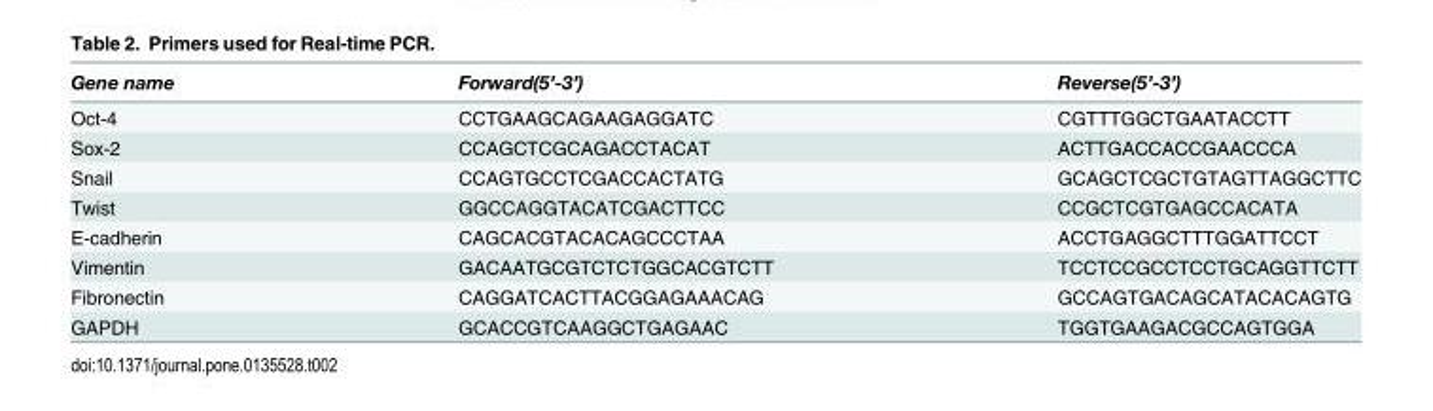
<table><thead><tr><td>Gene name</td><td>Forward(5’-3’)</td><td>Reverse(5’-3’)</td></tr></thead><tbody><tr><td>Oct-4</td><td>CCTGAAGCAGAAGAGGATC</td><td>CGTTTGGCTGAATACCTT</td></tr><tr><td>Sox-2</td><td>CCAGCTCGCAGACCTACAT</td><td>ACTTGACCACCGAACCCA</td></tr><tr><td>Snail</td><td>CCAGTGCCTCGACCACTATG</td><td>GCAGCTCGCTGTAGTTAGGCTTC</td></tr><tr><td>Twist</td><td>GGCCAGGTACATCGACTTCC</td><td>CCGCTCGTGAGCCACATA</td></tr><tr><td>E-cadherin</td><td>CAGCACGTACACAGCCCTAA</td><td>ACCTGAGGCTTTGGATTCCT</td></tr><tr><td>Vimentin</td><td>GACAATGCGTCTCTGGCACGTCTT</td><td>TCCTCCGCCTCCTGCAGGTTCTT</td></tr><tr><td>Fibronectin</td><td>CAGGATCACTTACGGAGAAACAG</td><td>GCCAGTGACAGCATACACAGTG</td></tr><tr><td>GAPDH</td><td>GCACCGTCAAGGCTGAGAAC</td><td>TGGTGAAGACGCCAGTGGA</td></tr></tbody></table>